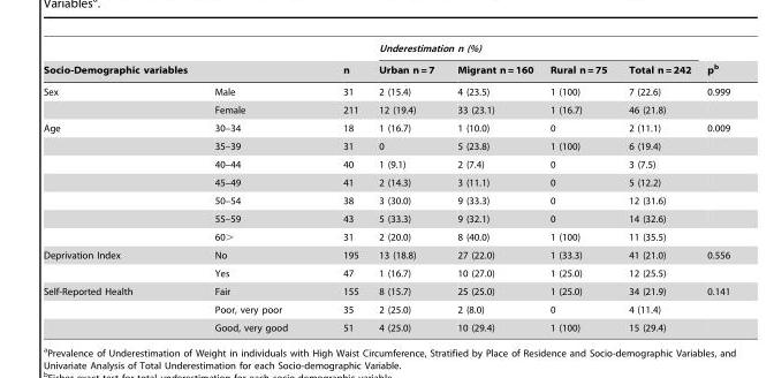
<table><thead><tr><td></td><td></td><td rowspan="2">n</td><td colspan="4">Underestimation n (%)</td><td rowspan="2">p<sup>b</sup></td></tr><tr><td colspan="2">Socio-Demographic variables</td><td>Urban n = 7</td><td>Migrant n = 160</td><td>Rural n = 75</td><td>Total n = 242</td></tr></thead><tbody><tr><td rowspan="2">Sex</td><td>Male</td><td>31</td><td>2 (15.4)</td><td>4 (23.5)</td><td>1 (100)</td><td>7 (22.6)</td><td>0.999</td></tr><tr><td>Female</td><td>211</td><td>12 (19.4)</td><td>33 (23.1)</td><td>1 (16.7)</td><td>46 (21.8)</td><td></td></tr><tr><td rowspan="7">Age</td><td>30–34</td><td>18</td><td>1 (16.7)</td><td>1 (10.0)</td><td>0</td><td>2 (11.1)</td><td>0.009</td></tr><tr><td>35–39</td><td>31</td><td>0</td><td>5 (23.8)</td><td>1 (100)</td><td>6 (19.4)</td><td></td></tr><tr><td>40–44</td><td>40</td><td>1 (9.1)</td><td>2 (7.4)</td><td>0</td><td>3 (7.5)</td><td></td></tr><tr><td>45–49</td><td>41</td><td>2 (14.3)</td><td>3 (11.1)</td><td>0</td><td>5 (12.2)</td><td></td></tr><tr><td>50–54</td><td>38</td><td>3 (30.0)</td><td>9 (33.3)</td><td>0</td><td>12 (31.6)</td><td></td></tr><tr><td>55–59</td><td>43</td><td>5 (33.3)</td><td>9 (32.1)</td><td>0</td><td>14 (32.6)</td><td></td></tr><tr><td>60&gt;</td><td>31</td><td>2 (20.0)</td><td>8 (40.0)</td><td>1 (100)</td><td>11 (35.5)</td><td></td></tr><tr><td rowspan="2">Deprivation Index</td><td>No</td><td>195</td><td>13 (18.8)</td><td>27 (22.0)</td><td>1 (33.3)</td><td>41 (21.0)</td><td>0.556</td></tr><tr><td>Yes</td><td>47</td><td>1 (16.7)</td><td>10 (27.0)</td><td>1 (25.0)</td><td>12 (25.5)</td><td></td></tr><tr><td rowspan="3">Self-Reported Health</td><td>Fair</td><td>155</td><td>8 (15.7)</td><td>25 (25.0)</td><td>1 (25.0)</td><td>34 (21.9)</td><td>0.141</td></tr><tr><td>Poor, very poor</td><td>35</td><td>2 (25.0)</td><td>2 (8.0)</td><td>0</td><td>4 (11.4)</td><td></td></tr><tr><td>Good, very good</td><td>51</td><td>4 (25.0)</td><td>10 (29.4)</td><td>1 (100)</td><td>15 (29.4)</td><td></td></tr></tbody></table>